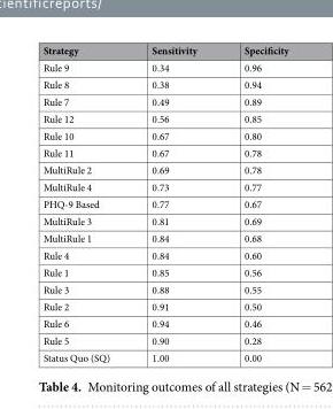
<table><thead><tr><td>Strategy</td><td>Sensitivity</td><td>Specificity</td></tr></thead><tbody><tr><td>Rule 9</td><td>0.34</td><td>0.96</td></tr><tr><td>Rule 8</td><td>0.38</td><td>0.94</td></tr><tr><td>Rule 7</td><td>0.49</td><td>0.89</td></tr><tr><td>Rule 12</td><td>0.56</td><td>0.85</td></tr><tr><td>Rule 10</td><td>0.67</td><td>0.80</td></tr><tr><td>Rule 11</td><td>0.67</td><td>0.78</td></tr><tr><td>MultiRule 2</td><td>0.69</td><td>0.78</td></tr><tr><td>MultiRule 4</td><td>0.73</td><td>0.77</td></tr><tr><td>PHQ-9 Based</td><td>0.77</td><td>0.67</td></tr><tr><td>MultiRule 3</td><td>0.81</td><td>0.69</td></tr><tr><td>MultiRule 1</td><td>0.84</td><td>0.68</td></tr><tr><td>Rule 4</td><td>0.84</td><td>0.60</td></tr><tr><td>Rule 1</td><td>0.85</td><td>0.56</td></tr><tr><td>Rule 3</td><td>0.88</td><td>0.55</td></tr><tr><td>Rule 2</td><td>0.91</td><td>0.50</td></tr><tr><td>Rule 6</td><td>0.94</td><td>0.46</td></tr><tr><td>Rule 5</td><td>0.90</td><td>0.28</td></tr><tr><td>Status Quo (SQ)</td><td>1.00</td><td>0.00</td></tr></tbody></table>